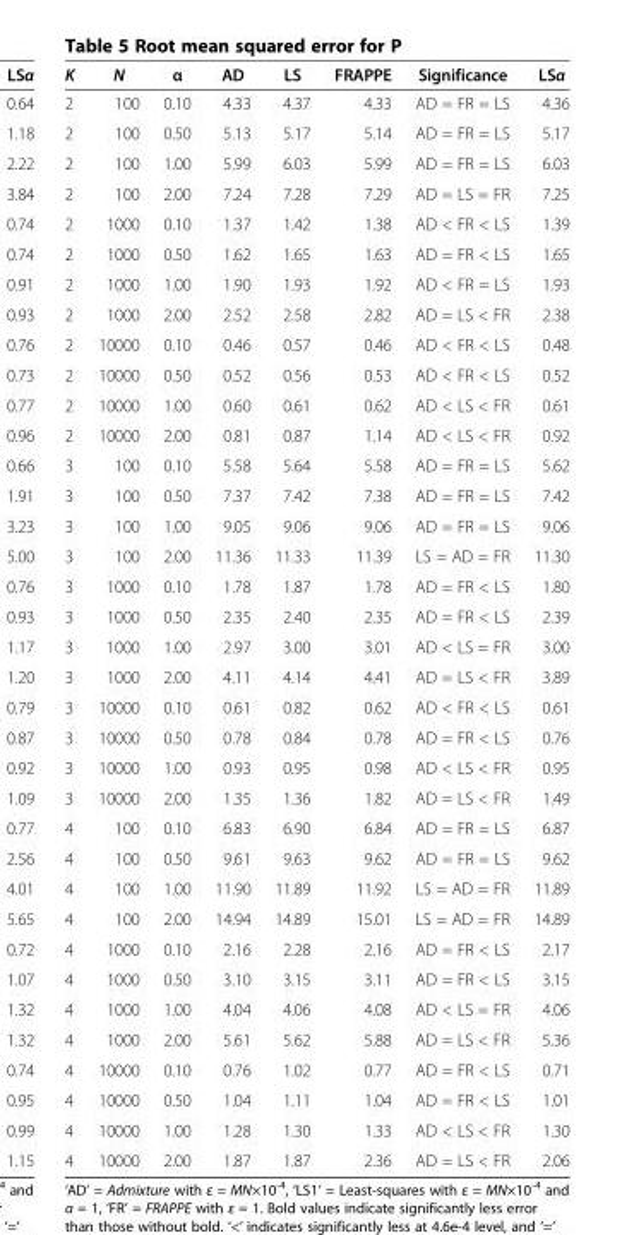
<table><thead><tr><td>K</td><td>N</td><td>α</td><td>AD</td><td>LS</td><td>FRAPPE</td><td>Significance</td><td>LSα</td></tr></thead><tbody><tr><td>2</td><td>100</td><td>0.10</td><td>4.33</td><td>4.37</td><td>4.33</td><td>AD = FR = LS</td><td>4.36</td></tr><tr><td>2</td><td>100</td><td>0.50</td><td>5.13</td><td>5.17</td><td>5.14</td><td>AD = FR = LS</td><td>5.17</td></tr><tr><td>2</td><td>100</td><td>1.00</td><td>5.99</td><td>6.03</td><td>5.99</td><td>AD = FR = LS</td><td>6.03</td></tr><tr><td>2</td><td>100</td><td>2.00</td><td>7.24</td><td>7.28</td><td>7.29</td><td>AD = LS = FR</td><td>7.25</td></tr><tr><td>2</td><td>1000</td><td>0.10</td><td>1.37</td><td>1.42</td><td>1.38</td><td>AD &lt; FR &lt; LS</td><td>1.39</td></tr><tr><td>2</td><td>1000</td><td>0.50</td><td>1.62</td><td>1.65</td><td>1.63</td><td>AD = FR &lt; LS</td><td>1.65</td></tr><tr><td>2</td><td>1000</td><td>1.00</td><td>1.90</td><td>1.93</td><td>1.92</td><td>AD &lt; FR = LS</td><td>1.93</td></tr><tr><td>2</td><td>1000</td><td>2.00</td><td>2.52</td><td>2.58</td><td>2.82</td><td>AD = LS &lt; FR</td><td>2.38</td></tr><tr><td>2</td><td>10000</td><td>0.10</td><td>0.46</td><td>0.57</td><td>0.46</td><td>AD &lt; FR &lt; LS</td><td>0.48</td></tr><tr><td>2</td><td>10000</td><td>0.50</td><td>0.52</td><td>0.56</td><td>0.53</td><td>AD &lt; FR &lt; LS</td><td>0.52</td></tr><tr><td>2</td><td>10000</td><td>1.00</td><td>0.60</td><td>0.61</td><td>0.62</td><td>AD &lt; LS &lt; FR</td><td>0.61</td></tr><tr><td>2</td><td>10000</td><td>2.00</td><td>0.81</td><td>0.87</td><td>1.14</td><td>AD &lt; LS &lt; FR</td><td>0.92</td></tr><tr><td>3</td><td>100</td><td>0.10</td><td>5.58</td><td>5.64</td><td>5.58</td><td>AD = FR = LS</td><td>5.62</td></tr><tr><td>3</td><td>100</td><td>0.50</td><td>7.37</td><td>7.42</td><td>7.38</td><td>AD = FR = LS</td><td>7.42</td></tr><tr><td>3</td><td>100</td><td>1.00</td><td>9.05</td><td>9.06</td><td>9.06</td><td>AD = FR = LS</td><td>9.06</td></tr><tr><td>3</td><td>100</td><td>2.00</td><td>11.36</td><td>11.33</td><td>11.39</td><td>LS = AD = FR</td><td>11.30</td></tr><tr><td>3</td><td>1000</td><td>0.10</td><td>1.78</td><td>1.87</td><td>1.78</td><td>AD = FR &lt; LS</td><td>1.80</td></tr><tr><td>3</td><td>1000</td><td>0.50</td><td>2.35</td><td>2.40</td><td>2.35</td><td>AD = FR &lt; LS</td><td>2.39</td></tr><tr><td>3</td><td>1000</td><td>1.00</td><td>2.97</td><td>3.00</td><td>3.01</td><td>AD &lt; LS = FR</td><td>3.00</td></tr><tr><td>3</td><td>1000</td><td>2.00</td><td>4.11</td><td>4.14</td><td>4.41</td><td>AD = LS &lt; FR</td><td>3.89</td></tr><tr><td>3</td><td>10000</td><td>0.10</td><td>0.61</td><td>0.82</td><td>0.62</td><td>AD &lt; FR &lt; LS</td><td>0.61</td></tr><tr><td>3</td><td>10000</td><td>0.50</td><td>0.78</td><td>0.84</td><td>0.78</td><td>AD = FR &lt; LS</td><td>0.76</td></tr><tr><td>3</td><td>10000</td><td>1.00</td><td>0.93</td><td>0.95</td><td>0.98</td><td>AD &lt; LS &lt; FR</td><td>0.95</td></tr><tr><td>3</td><td>10000</td><td>2.00</td><td>1.35</td><td>1.36</td><td>1.82</td><td>AD = LS &lt; FR</td><td>1.49</td></tr><tr><td>4</td><td>100</td><td>0.10</td><td>6.83</td><td>6.90</td><td>6.84</td><td>AD = FR = LS</td><td>6.87</td></tr><tr><td>4</td><td>100</td><td>0.50</td><td>9.61</td><td>9.63</td><td>9.62</td><td>AD = FR = LS</td><td>9.62</td></tr><tr><td>4</td><td>100</td><td>1.00</td><td>11.90</td><td>11.89</td><td>11.92</td><td>LS = AD = FR</td><td>11.89</td></tr><tr><td>4</td><td>100</td><td>2.00</td><td>14.94</td><td>14.89</td><td>15.01</td><td>LS = AD = FR</td><td>14.89</td></tr><tr><td>4</td><td>1000</td><td>0.10</td><td>2.16</td><td>2.28</td><td>2.16</td><td>AD = FR &lt; LS</td><td>2.17</td></tr><tr><td>4</td><td>1000</td><td>0.50</td><td>3.10</td><td>3.15</td><td>3.11</td><td>AD = FR &lt; LS</td><td>3.15</td></tr><tr><td>4</td><td>1000</td><td>1.00</td><td>4.04</td><td>4.06</td><td>4.08</td><td>AD &lt; LS = FR</td><td>4.06</td></tr><tr><td>4</td><td>1000</td><td>2.00</td><td>5.61</td><td>5.62</td><td>5.88</td><td>AD = LS &lt; FR</td><td>5.36</td></tr><tr><td>4</td><td>10000</td><td>0.10</td><td>0.76</td><td>1.02</td><td>0.77</td><td>AD = FR &lt; LS</td><td>0.71</td></tr><tr><td>4</td><td>10000</td><td>0.50</td><td>1.04</td><td>1.11</td><td>1.04</td><td>AD = FR &lt; LS</td><td>1.01</td></tr><tr><td>4</td><td>10000</td><td>1.00</td><td>1.28</td><td>1.30</td><td>1.33</td><td>AD &lt; LS &lt; FR</td><td>1.30</td></tr><tr><td>4</td><td>10000</td><td>2.00</td><td>1.87</td><td>1.87</td><td>2.36</td><td>AD = LS &lt; FR</td><td>2.06</td></tr></tbody></table>